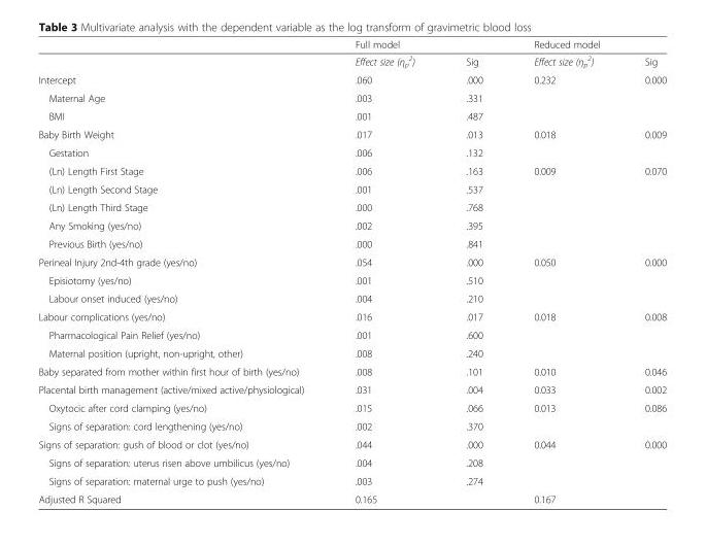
<table><thead><tr><td rowspan="2"></td><td colspan="2">Full model</td><td colspan="2">Reduced model</td></tr><tr><td>Effect size (η<sub>p</sub> <sup>2</sup>)</td><td>Sig</td><td>Effect size (η<sub>p</sub> <sup>2</sup>)</td><td>Sig</td></tr></thead><tbody><tr><td>Intercept</td><td>.060</td><td>.000</td><td>0.232</td><td>0.000</td></tr><tr><td>Maternal Age</td><td>.003</td><td>.331</td><td></td><td></td></tr><tr><td>BMI</td><td>.001</td><td>.487</td><td></td><td></td></tr><tr><td>Baby Birth Weight</td><td>.017</td><td>.013</td><td>0.018</td><td>0.009</td></tr><tr><td>Gestation</td><td>.006</td><td>.132</td><td></td><td></td></tr><tr><td>(Ln) Length First Stage</td><td>.006</td><td>.163</td><td>0.009</td><td>0.070</td></tr><tr><td>(Ln) Length Second Stage</td><td>.001</td><td>.537</td><td></td><td></td></tr><tr><td>(Ln) Length Third Stage</td><td>.000</td><td>.768</td><td></td><td></td></tr><tr><td>Any Smoking (yes/no)</td><td>.002</td><td>.395</td><td></td><td></td></tr><tr><td>Previous Birth (yes/no)</td><td>.000</td><td>.841</td><td></td><td></td></tr><tr><td>Perineal Injury 2nd-4th grade (yes/no)</td><td>.054</td><td>.000</td><td>0.050</td><td>0.000</td></tr><tr><td>Episiotomy (yes/no)</td><td>.001</td><td>.510</td><td></td><td></td></tr><tr><td>Labour onset induced (yes/no)</td><td>.004</td><td>.210</td><td></td><td></td></tr><tr><td>Labour complications (yes/no)</td><td>.016</td><td>.017</td><td>0.018</td><td>0.008</td></tr><tr><td>Pharmacological Pain Relief (yes/no)</td><td>.001</td><td>.600</td><td></td><td></td></tr><tr><td>Maternal position (upright, non-upright, other)</td><td>.008</td><td>.240</td><td></td><td></td></tr><tr><td>Baby separated from mother within first hour of birth (yes/no)</td><td>.008</td><td>.101</td><td>0.010</td><td>0.046</td></tr><tr><td>Placental birth management (active/mixed active/physiological)</td><td>.031</td><td>.004</td><td>0.033</td><td>0.002</td></tr><tr><td>Oxytocic after cord clamping (yes/no)</td><td>.015</td><td>.066</td><td>0.013</td><td>0.086</td></tr><tr><td>Signs of separation: cord lengthening (yes/no)</td><td>.002</td><td>.370</td><td></td><td></td></tr><tr><td>Signs of separation: gush of blood or clot (yes/no)</td><td>.044</td><td>.000</td><td>0.044</td><td>0.000</td></tr><tr><td>Signs of separation: uterus risen above umbilicus (yes/no)</td><td>.004</td><td>.208</td><td></td><td></td></tr><tr><td>Signs of separation: maternal urge to push (yes/no)</td><td>.003</td><td>.274</td><td></td><td></td></tr><tr><td>Adjusted R Squared</td><td>0.165</td><td></td><td>0.167</td><td></td></tr></tbody></table>